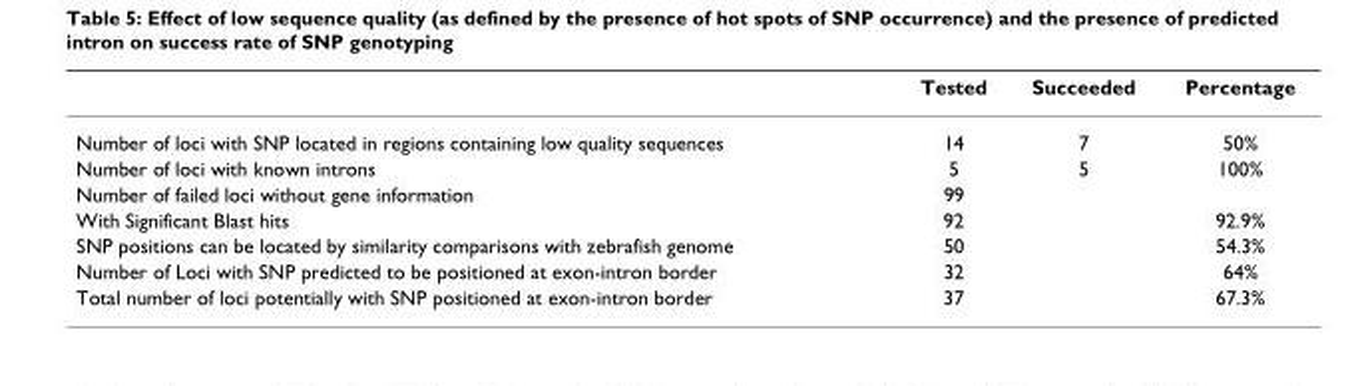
<table><thead><tr><td></td><td>Tested</td><td>Succeeded</td><td>Percentage</td></tr></thead><tbody><tr><td>Number of loci with SNP located in regions containing low quality sequences</td><td>14</td><td>7</td><td>50%</td></tr><tr><td>Number of loci with known introns</td><td>5</td><td>5</td><td>100%</td></tr><tr><td>Number of failed loci without gene information</td><td>99</td><td></td><td></td></tr><tr><td>With Significant Blast hits</td><td>92</td><td></td><td>92.9%</td></tr><tr><td>SNP positions can be located by similarity comparisons with zebrafish genome</td><td>50</td><td></td><td>54.3%</td></tr><tr><td>Number of Loci with SNP predicted to be positioned at exon-intron border</td><td>32</td><td></td><td>64%</td></tr><tr><td>Total number of loci potentially with SNP positioned at exon-intron border</td><td>37</td><td></td><td>67.3%</td></tr></tbody></table>